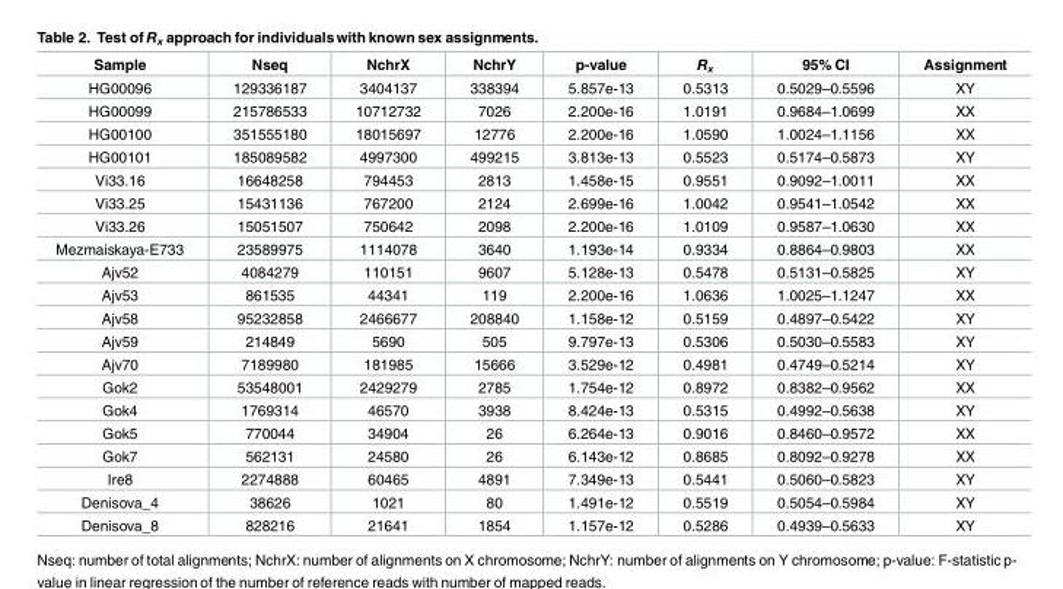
<table><thead><tr><td>Sample</td><td>Nseq</td><td>NchrX</td><td>NchrY</td><td>p-value</td><td>R<sub>x</sub></td><td>95% CI</td><td>Assignment</td></tr></thead><tbody><tr><td>HG00096</td><td>129336187</td><td>3404137</td><td>338394</td><td>5.857e-13</td><td>0.5313</td><td>0.5029–0.5596</td><td>XY</td></tr><tr><td>HG00099</td><td>215786533</td><td>10712732</td><td>7026</td><td>2.200e-16</td><td>1.0191</td><td>0.9684–1.0699</td><td>XX</td></tr><tr><td>HG00100</td><td>351555180</td><td>18015697</td><td>12776</td><td>2.200e-16</td><td>1.0590</td><td>1.0024–1.1156</td><td>XX</td></tr><tr><td>HG00101</td><td>185089582</td><td>4997300</td><td>499215</td><td>3.813e-13</td><td>0.5523</td><td>0.5174–0.5873</td><td>XY</td></tr><tr><td>Vi33.16</td><td>16648258</td><td>794453</td><td>2813</td><td>1.458e-15</td><td>0.9551</td><td>0.9092–1.0011</td><td>XX</td></tr><tr><td>Vi33.25</td><td>15431136</td><td>767200</td><td>2124</td><td>2.699e-16</td><td>1.0042</td><td>0.9541–1.0542</td><td>XX</td></tr><tr><td>Vi33.26</td><td>15051507</td><td>750642</td><td>2098</td><td>2.200e-16</td><td>1.0109</td><td>0.9587–1.0630</td><td>XX</td></tr><tr><td>Mezmaiskaya-E733</td><td>23589975</td><td>1114078</td><td>3640</td><td>1.193e-14</td><td>0.9334</td><td>0.8864–0.9803</td><td>XX</td></tr><tr><td>Ajv52</td><td>4084279</td><td>110151</td><td>9607</td><td>5.128e-13</td><td>0.5478</td><td>0.5131–0.5825</td><td>XY</td></tr><tr><td>Ajv53</td><td>861535</td><td>44341</td><td>119</td><td>2.200e-16</td><td>1.0636</td><td>1.0025–1.1247</td><td>XX</td></tr><tr><td>Ajv58</td><td>95232858</td><td>2466677</td><td>208840</td><td>1.158e-12</td><td>0.5159</td><td>0.4897–0.5422</td><td>XY</td></tr><tr><td>Ajv59</td><td>214849</td><td>5690</td><td>505</td><td>9.797e-13</td><td>0.5306</td><td>0.5030–0.5583</td><td>XY</td></tr><tr><td>Ajv70</td><td>7189980</td><td>181985</td><td>15666</td><td>3.529e-12</td><td>0.4981</td><td>0.4749–0.5214</td><td>XY</td></tr><tr><td>Gok2</td><td>53548001</td><td>2429279</td><td>2785</td><td>1.754e-12</td><td>0.8972</td><td>0.8382–0.9562</td><td>XX</td></tr><tr><td>Gok4</td><td>1769314</td><td>46570</td><td>3938</td><td>8.424e-13</td><td>0.5315</td><td>0.4992–0.5638</td><td>XY</td></tr><tr><td>Gok5</td><td>770044</td><td>34904</td><td>26</td><td>6.264e-13</td><td>0.9016</td><td>0.8460–0.9572</td><td>XX</td></tr><tr><td>Gok7</td><td>562131</td><td>24580</td><td>26</td><td>6.143e-12</td><td>0.8685</td><td>0.8092–0.9278</td><td>XX</td></tr><tr><td>Ire8</td><td>2274888</td><td>60465</td><td>4891</td><td>7.349e-13</td><td>0.5441</td><td>0.5060–0.5823</td><td>XY</td></tr><tr><td>Denisova_4</td><td>38626</td><td>1021</td><td>80</td><td>1.491e-12</td><td>0.5519</td><td>0.5054–0.5984</td><td>XY</td></tr><tr><td>Denisova_8</td><td>828216</td><td>21641</td><td>1854</td><td>1.157e-12</td><td>0.5286</td><td>0.4939–0.5633</td><td>XY</td></tr></tbody></table>